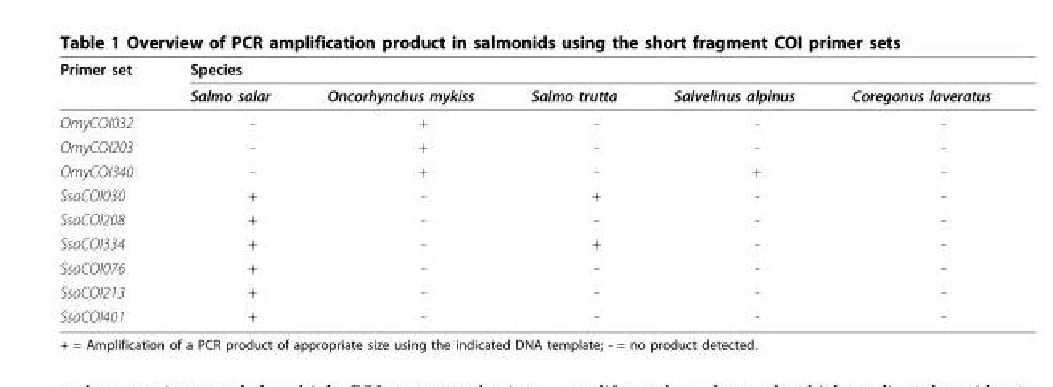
<table><thead><tr><td rowspan="2">Primer set</td><td colspan="5">Species</td></tr><tr><td>Salmo salar</td><td>Oncorhynchus mykiss</td><td>Salmo trutta</td><td>Salvelinus alpinus</td><td>Coregonus laveratus</td></tr></thead><tbody><tr><td>OmyCOI032</td><td>-</td><td>+</td><td>-</td><td>-</td><td>-</td></tr><tr><td>OmyCOI203</td><td>-</td><td>+</td><td>-</td><td>-</td><td>-</td></tr><tr><td>OmyCOI340</td><td>-</td><td>+</td><td>-</td><td>+</td><td>-</td></tr><tr><td>SsaCOI030</td><td>+</td><td>-</td><td>+</td><td>-</td><td>-</td></tr><tr><td>SsaCOI208</td><td>+</td><td>-</td><td>-</td><td>-</td><td>-</td></tr><tr><td>SsaCOI334</td><td>+</td><td>-</td><td>+</td><td>-</td><td>-</td></tr><tr><td>SsaCOI076</td><td>+</td><td>-</td><td>-</td><td>-</td><td>-</td></tr><tr><td>SsaCOI213</td><td>+</td><td>-</td><td>-</td><td>-</td><td>-</td></tr><tr><td>SsaCOI401</td><td>+</td><td>-</td><td>-</td><td>-</td><td>-</td></tr></tbody></table>